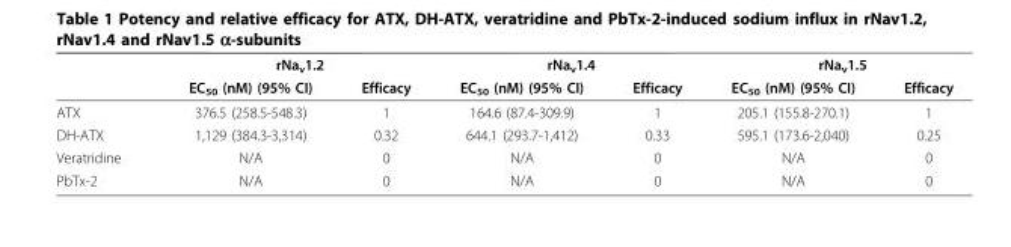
<table><thead><tr><td rowspan="2"></td><td colspan="2">rNa<sub>v</sub>1.2</td><td colspan="2">rNa<sub>v</sub>1.4</td><td colspan="2">rNa<sub>v</sub>1.5</td></tr><tr><td>EC<sub>50</sub> (nM) (95% CI)</td><td>Efficacy</td><td>EC<sub>50</sub> (nM) (95% CI)</td><td>Efficacy</td><td>EC<sub>50</sub> (nM) (95% CI)</td><td>Efficacy</td></tr></thead><tbody><tr><td>ATX</td><td>376.5 (258.5-548.3)</td><td>1</td><td>164.6 (87.4-309.9)</td><td>1</td><td>205.1 (155.8-270.1)</td><td>1</td></tr><tr><td>DH-ATX</td><td>1,129 (384.3-3,314)</td><td>0.32</td><td>644.1 (293.7-1,412)</td><td>0.33</td><td>595.1 (173.6-2,040)</td><td>0.25</td></tr><tr><td>Veratridine</td><td>N/A</td><td>0</td><td>N/A</td><td>0</td><td>N/A</td><td>0</td></tr><tr><td>PbTx-2</td><td>N/A</td><td>0</td><td>N/A</td><td>0</td><td>N/A</td><td>0</td></tr></tbody></table>